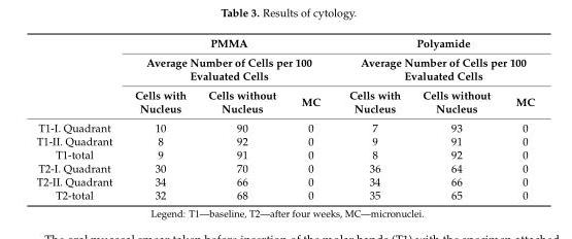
<table><thead><tr><td rowspan="3"></td><td rowspan="2" colspan="3">PMMA Average Number of Cells per 100 Evaluated Cells</td><td rowspan="2" colspan="3">Polyamide Average Number of Cells per 100 Evaluated Cells</td></tr><tr></tr><tr><td>Cells with Nucleus</td><td>Cells without Nucleus</td><td>MC</td><td>Cells with Nucleus</td><td>Cells without Nucleus</td><td>MC</td></tr></thead><tbody><tr><td>T1-I. Quadrant</td><td>10</td><td>90</td><td>0</td><td>7</td><td>93</td><td>0</td></tr><tr><td>T1-II. Quadrant</td><td>8</td><td>92</td><td>0</td><td>9</td><td>91</td><td>0</td></tr><tr><td>T1-total</td><td>9</td><td>91</td><td>0</td><td>8</td><td>92</td><td>0</td></tr><tr><td>T2-I. Quadrant</td><td>30</td><td>70</td><td>0</td><td>36</td><td>64</td><td>0</td></tr><tr><td>T2-II. Quadrant</td><td>34</td><td>66</td><td>0</td><td>34</td><td>66</td><td>0</td></tr><tr><td>T2-total</td><td>32</td><td>68</td><td>0</td><td>35</td><td>65</td><td>0</td></tr></tbody></table>